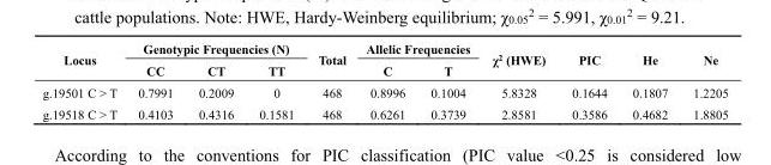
<table><thead><tr><td rowspan="2">Locus</td><td colspan="3">Genotypic Frequencies (N)</td><td rowspan="2">Total</td><td colspan="2">Allelic Frequencies</td><td rowspan="2">χ<sup>2</sup> (HWE)</td><td rowspan="2">PIC</td><td rowspan="2">He</td><td rowspan="2">Ne</td></tr><tr><td>CC</td><td>CT</td><td>TT</td><td>C</td><td>T</td></tr></thead><tbody><tr><td>g.19501 C &gt; T</td><td>0.7991</td><td>0.2009</td><td>0</td><td>468</td><td>0.8996</td><td>0.1004</td><td>5.8328</td><td>0.1644</td><td>0.1807</td><td>1.2205</td></tr><tr><td>g.19518 C &gt; T</td><td>0.4103</td><td>0.4316</td><td>0.1581</td><td>468</td><td>0.6261</td><td>0.3739</td><td>2.8581</td><td>0.3586</td><td>0.4682</td><td>1.8805</td></tr></tbody></table>